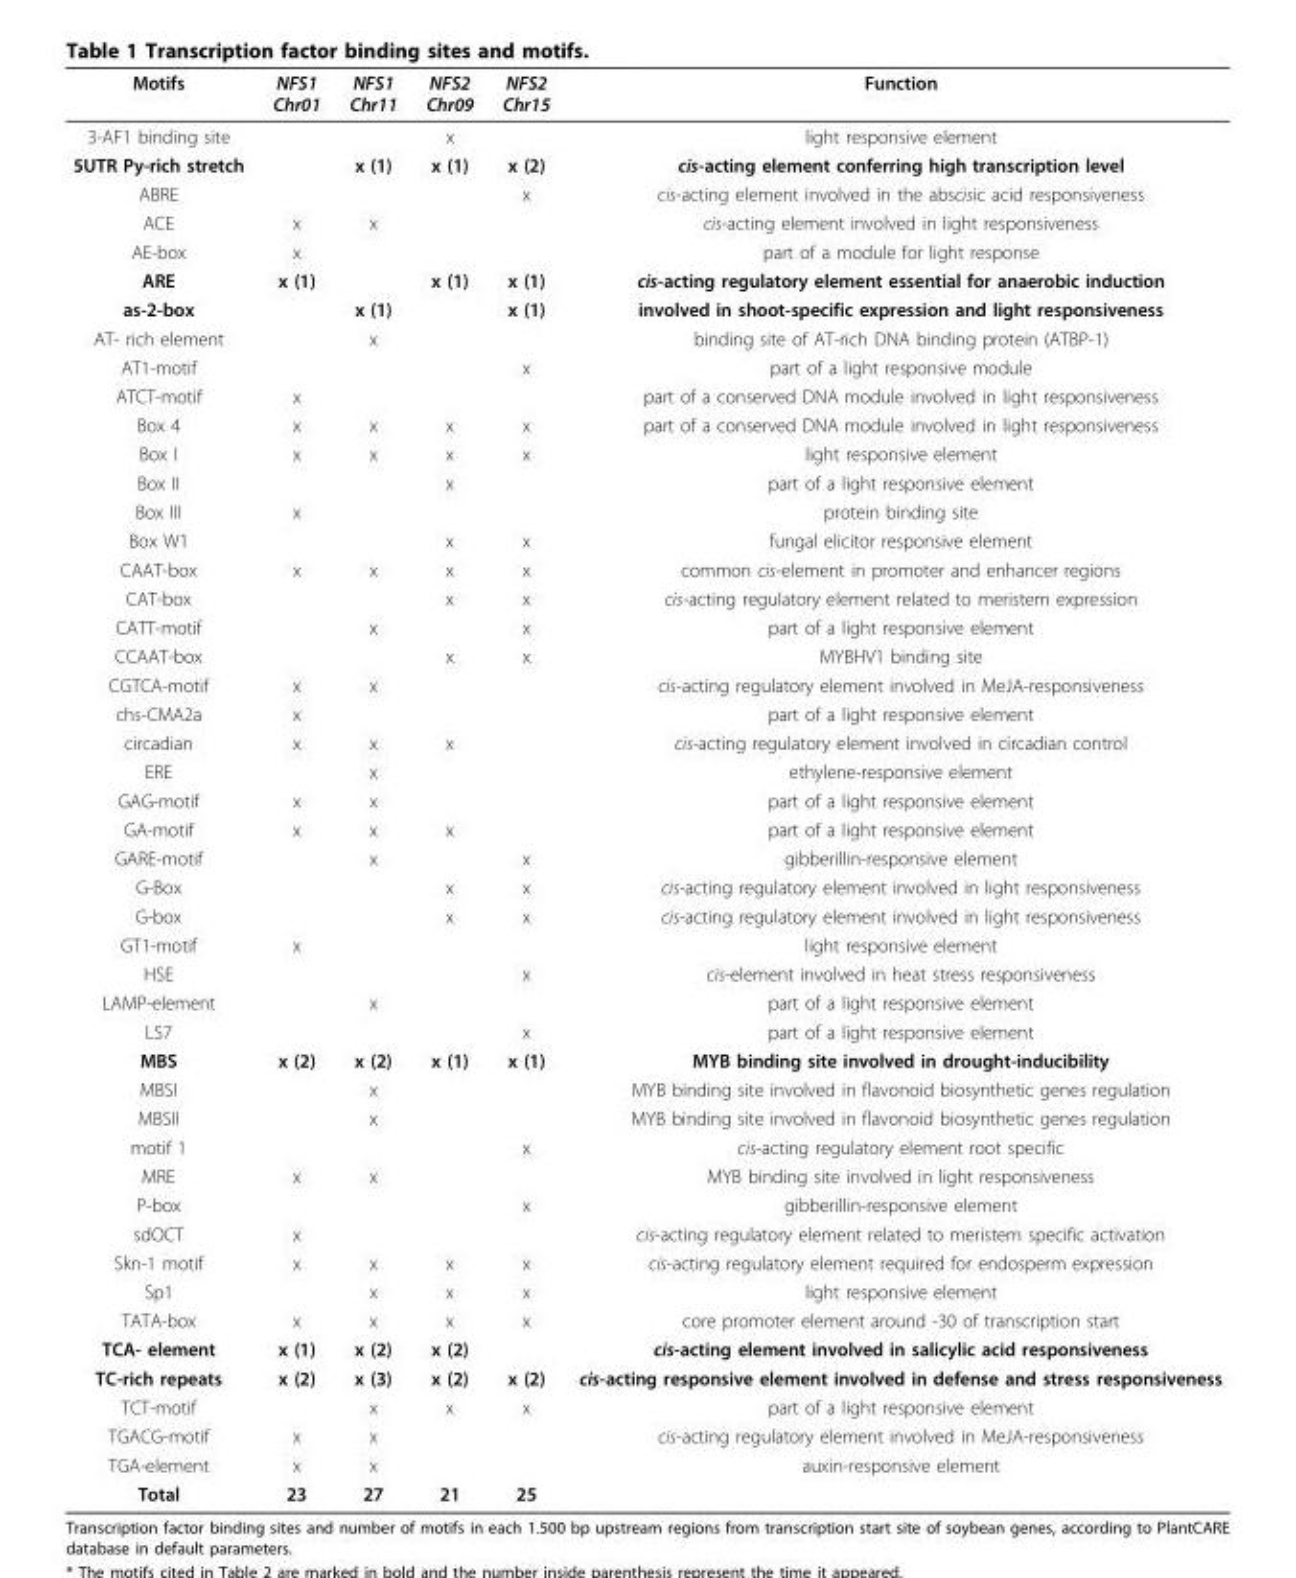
<table><thead><tr><td>Motifs</td><td>NFS1 Chr01</td><td>NFS1 Chr11</td><td>NFS2 Chr09</td><td>NFS2 Chr15</td><td>Function</td></tr></thead><tbody><tr><td>3-AF1 binding site</td><td></td><td></td><td>x</td><td></td><td>light responsive element</td></tr><tr><td>5UTR Py-rich stretch</td><td></td><td>x (1)</td><td>x (1)</td><td>x (2)</td><td>cis-acting element conferring high transcription level</td></tr><tr><td>ABRE</td><td></td><td></td><td></td><td>x</td><td>cis-acting element involved in the abscisic acid responsiveness</td></tr><tr><td>ACE</td><td>x</td><td>x</td><td></td><td></td><td>cis-acting element involved in light responsiveness</td></tr><tr><td>AE-box</td><td>x</td><td></td><td></td><td></td><td>part of a module for light response</td></tr><tr><td>ARE</td><td>x (1)</td><td></td><td>x (1)</td><td>x (1)</td><td>cis-acting regulatory element essential for anaerobic induction</td></tr><tr><td>as-2-box</td><td></td><td>x (1)</td><td></td><td>x (1)</td><td>involved in shoot-specific expression and light responsiveness</td></tr><tr><td>AT- rich element</td><td></td><td>x</td><td></td><td></td><td>binding site of AT-rich DNA binding protein (ATBP-1)</td></tr><tr><td>AT1-motif</td><td></td><td></td><td></td><td>x</td><td>part of a light responsive module</td></tr><tr><td>ATCT-motif</td><td>x</td><td></td><td></td><td></td><td>part of a conserved DNA module involved in light responsiveness</td></tr><tr><td>Box 4</td><td>x</td><td>x</td><td>x</td><td>x</td><td>part of a conserved DNA module involved in light responsiveness</td></tr><tr><td>Box I</td><td>x</td><td>x</td><td>x</td><td>x</td><td>light responsive element</td></tr><tr><td>Box II</td><td></td><td></td><td>x</td><td></td><td>part of a light responsive element</td></tr><tr><td>Box III</td><td>x</td><td></td><td></td><td></td><td>protein binding site</td></tr><tr><td>Box W1</td><td></td><td></td><td>x</td><td>x</td><td>fungal elicitor responsive element</td></tr><tr><td>CAAT-box</td><td>x</td><td>x</td><td>x</td><td>x</td><td>common cis-element in promoter and enhancer regions</td></tr><tr><td>CAT-box</td><td></td><td></td><td>x</td><td>x</td><td>cis-acting regulatory element related to meristem expression</td></tr><tr><td>CATT-motif</td><td></td><td>x</td><td></td><td>x</td><td>part of a light responsive element</td></tr><tr><td>CCAAT-box</td><td></td><td></td><td>x</td><td>x</td><td>MYBHV1 binding site</td></tr><tr><td>CGTCA-motif</td><td>x</td><td>x</td><td></td><td></td><td>cis-acting regulatory element involved in MeJA-responsiveness</td></tr><tr><td>chs-CMA2a</td><td>x</td><td></td><td></td><td></td><td>part of a light responsive element</td></tr><tr><td>circadian</td><td>x</td><td>x</td><td>x</td><td></td><td>cis-acting regulatory element involved in circadian control</td></tr><tr><td>ERE</td><td></td><td>x</td><td></td><td></td><td>ethylene-responsive element</td></tr><tr><td>GAG-motif</td><td>x</td><td>x</td><td></td><td></td><td>part of a light responsive element</td></tr><tr><td>GA-motif</td><td>x</td><td>x</td><td>x</td><td></td><td>part of a light responsive element</td></tr><tr><td>GARE-motif</td><td></td><td>x</td><td></td><td>x</td><td>gibberillin-responsive element</td></tr><tr><td>G-Box</td><td></td><td></td><td>x</td><td>x</td><td>cis-acting regulatory element involved in light responsiveness</td></tr><tr><td>G-box</td><td></td><td></td><td>x</td><td>x</td><td>cis-acting regulatory element involved in light responsiveness</td></tr><tr><td>GT1-motif</td><td>x</td><td></td><td></td><td></td><td>light responsive element</td></tr><tr><td>HSE</td><td></td><td></td><td></td><td>x</td><td>cis-element involved in heat stress responsiveness</td></tr><tr><td>LAMP-element</td><td></td><td>x</td><td></td><td></td><td>part of a light responsive element</td></tr><tr><td>LS7</td><td></td><td></td><td></td><td>x</td><td>part of a light responsive element</td></tr><tr><td>MBS</td><td>x (2)</td><td>x (2)</td><td>x (1)</td><td>x (1)</td><td>MYB binding site involved in drought-inducibility</td></tr><tr><td>MBSI</td><td></td><td>x</td><td></td><td></td><td>MYB binding site involved in flavonoid biosynthetic genes regulation</td></tr><tr><td>MBSII</td><td></td><td>x</td><td></td><td></td><td>MYB binding site involved in flavonoid biosynthetic genes regulation</td></tr><tr><td>motif 1</td><td></td><td></td><td></td><td>x</td><td>cis-acting regulatory element root specific</td></tr><tr><td>MRE</td><td>x</td><td>x</td><td></td><td></td><td>MYB binding site involved in light responsiveness</td></tr><tr><td>P-box</td><td></td><td></td><td></td><td>x</td><td>gibberillin-responsive element</td></tr><tr><td>sdOCT</td><td>x</td><td></td><td></td><td></td><td>cis-acting regulatory element related to meristem specific activation</td></tr><tr><td>Skn-1 motif</td><td>x</td><td>x</td><td>x</td><td>x</td><td>cis-acting regulatory element required for endosperm expression</td></tr><tr><td>Sp1</td><td></td><td>x</td><td>x</td><td>x</td><td>light responsive element</td></tr><tr><td>TATA-box</td><td>x</td><td>x</td><td>x</td><td>x</td><td>core promoter element around -30 of transcription start</td></tr><tr><td>TCA- element</td><td>x (1)</td><td>x (2)</td><td>x (2)</td><td></td><td>cis-acting element involved in salicylic acid responsiveness</td></tr><tr><td>TC-rich repeats</td><td>x (2)</td><td>x (3)</td><td>x (2)</td><td>x (2)</td><td>cis-acting responsive element involved in defense and stress responsiveness</td></tr><tr><td>TCT-motif</td><td></td><td>x</td><td>x</td><td>x</td><td>part of a light responsive element</td></tr><tr><td>TGACG-motif</td><td>x</td><td>x</td><td></td><td></td><td>cis-acting regulatory element involved in MeJA-responsiveness</td></tr><tr><td>TGA-element</td><td>x</td><td>x</td><td></td><td></td><td>auxin-responsive element</td></tr><tr><td>Total</td><td>23</td><td>27</td><td>21</td><td>25</td><td></td></tr></tbody></table>